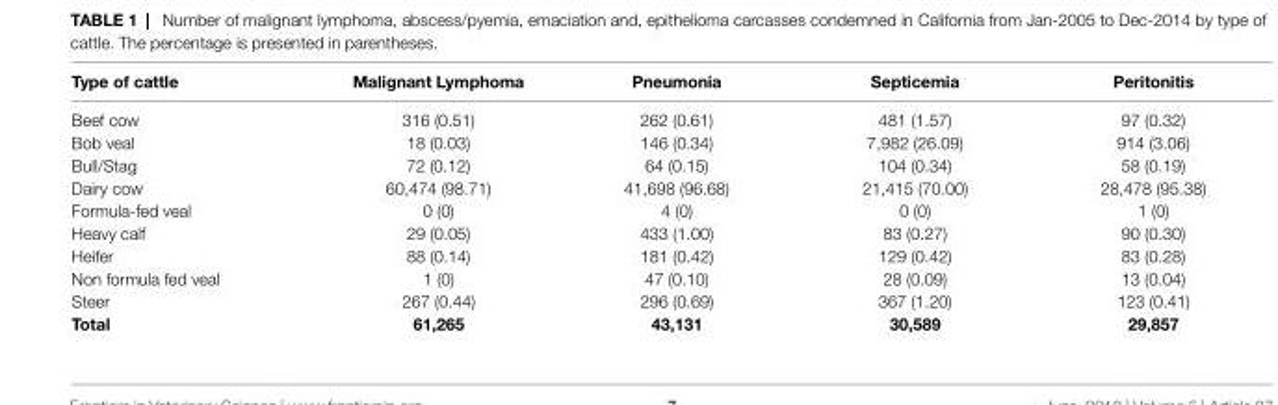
<table><thead><tr><td>Type of cattle</td><td>Malignant lymphoma</td><td>Pneumonia</td><td>septicemia</td><td>Peritonitis</td></tr></thead><tbody><tr><td>Beef cow</td><td>316 (0.51)</td><td>262 (0.61)</td><td>481 (1.57)</td><td>97 (0.32)</td></tr><tr><td>Bob veal</td><td>18 (0.03)</td><td>146 (0.34)</td><td>7,982 (26.09)</td><td>914 (3.06)</td></tr><tr><td>Bull/Stag</td><td>72 (0.12)</td><td>64 (0.15)</td><td>104 (0.34)</td><td>58 (0.19)</td></tr><tr><td>Dairy cow</td><td>60,474 (98.71)</td><td>41,698 (96.68)</td><td>21,415 (70.00)</td><td>28,478 (95.38)</td></tr><tr><td>Formula-fed veal</td><td>0 (0)</td><td>4 (0)</td><td>0 (0)</td><td>1 (0)</td></tr><tr><td>Heavy calf</td><td>29 (0.05)</td><td>433 (1.00)</td><td>83 (0.27)</td><td>90 (0.30)</td></tr><tr><td>Heifer</td><td>88 (0.14)</td><td>181 (0.42)</td><td>129 (0.42)</td><td>83 (0.28)</td></tr><tr><td>Non formula fed veal</td><td>1 (0)</td><td>47 (0.10)</td><td>28 (0.09)</td><td>13 (0.04)</td></tr><tr><td>Steer</td><td>267 (0.44)</td><td>296 (0.69)</td><td>367 (1.20)</td><td>123 (0.41)</td></tr><tr><td>Total</td><td>61,265</td><td>43,131</td><td>30,589</td><td>29,857</td></tr></tbody></table>